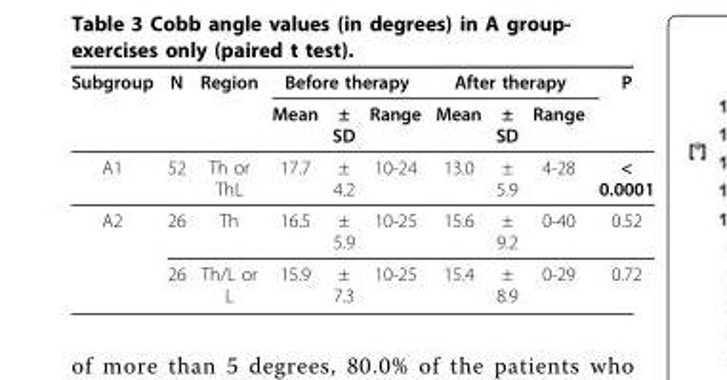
<table><thead><tr><td rowspan="2">Subgroup</td><td rowspan="2">N</td><td rowspan="2">Region</td><td colspan="3">Before therapy</td><td colspan="3">After therapy</td><td rowspan="2">P</td></tr><tr><td>Mean</td><td>± SD</td><td>Range</td><td>Mean</td><td>± SD</td><td>Range</td></tr></thead><tbody><tr><td>A1</td><td>52</td><td>Th or ThL</td><td>17.7</td><td>± 4.2</td><td>10-24</td><td>13.0</td><td>± 5.9</td><td>4-28</td><td>&lt; 0.0001</td></tr><tr><td rowspan="2">A2</td><td>26</td><td>Th</td><td>16.5</td><td>± 5.9</td><td>10-25</td><td>15.6</td><td>± 9.2</td><td>0-40</td><td>0.52</td></tr><tr><td>26</td><td>Th/L or L</td><td>15.9</td><td>± 7.3</td><td>10-25</td><td>15.4</td><td>± 8.9</td><td>0-29</td><td>0.72</td></tr></tbody></table>